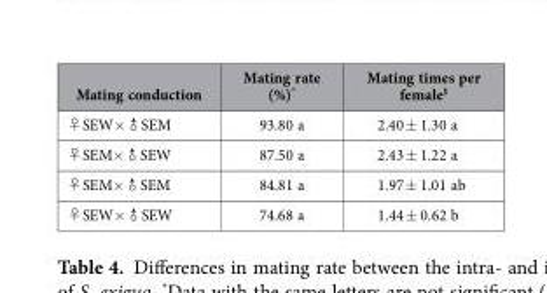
<table><thead><tr><td>Mating conduction</td><td>Mating rate (%)*</td><td>Mating times per female‡</td></tr></thead><tbody><tr><td>♀SEW×♂SEM</td><td>93.80 a</td><td>2.40 ± 1.30 a</td></tr><tr><td>♀SEM×♂SEW</td><td>87.50 a</td><td>2.43 ± 1.22 a</td></tr><tr><td>♀SEM×♂SEM</td><td>84.81 a</td><td>1.97 ± 1.01 ab</td></tr><tr><td>♀SEW×♂SEW</td><td>74.68 a</td><td>1.44 ± 0.62 b</td></tr></tbody></table>